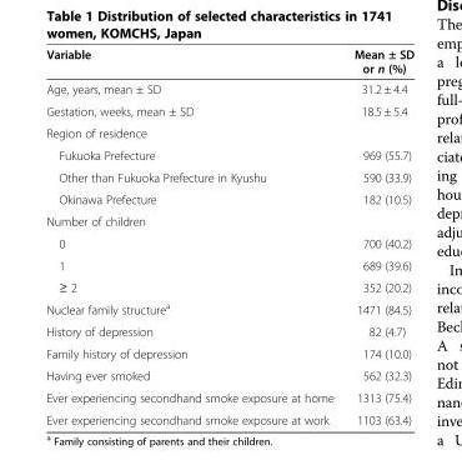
<table><thead><tr><td>Variable</td><td>Mean ± SD or n (%)</td></tr></thead><tbody><tr><td>Age, years, mean ± SD</td><td>31.2 ± 4.4</td></tr><tr><td>Gestation, weeks, mean ± SD</td><td>18.5 ± 5.4</td></tr><tr><td colspan="2">Region of residence</td></tr><tr><td>Fukuoka Prefecture</td><td>969 (55.7)</td></tr><tr><td>Other than Fukuoka Prefecture in Kyushu</td><td>590 (33.9)</td></tr><tr><td>Okinawa Prefecture</td><td>182 (10.5)</td></tr><tr><td colspan="2">Number of children</td></tr><tr><td>0</td><td>700 (40.2)</td></tr><tr><td>1</td><td>689 (39.6)</td></tr><tr><td>≥ 2</td><td>352 (20.2)</td></tr><tr><td>Nuclear family structure<sup>a</sup></td><td>1471 (84.5)</td></tr><tr><td>History of depression</td><td>82 (4.7)</td></tr><tr><td>Family history of depression</td><td>174 (10.0)</td></tr><tr><td>Having ever smoked</td><td>562 (32.3)</td></tr><tr><td>Ever experiencing secondhand smoke exposure at home</td><td>1313 (75.4)</td></tr><tr><td>Ever experiencing secondhand smoke exposure at work</td><td>1103 (63.4)</td></tr></tbody></table>